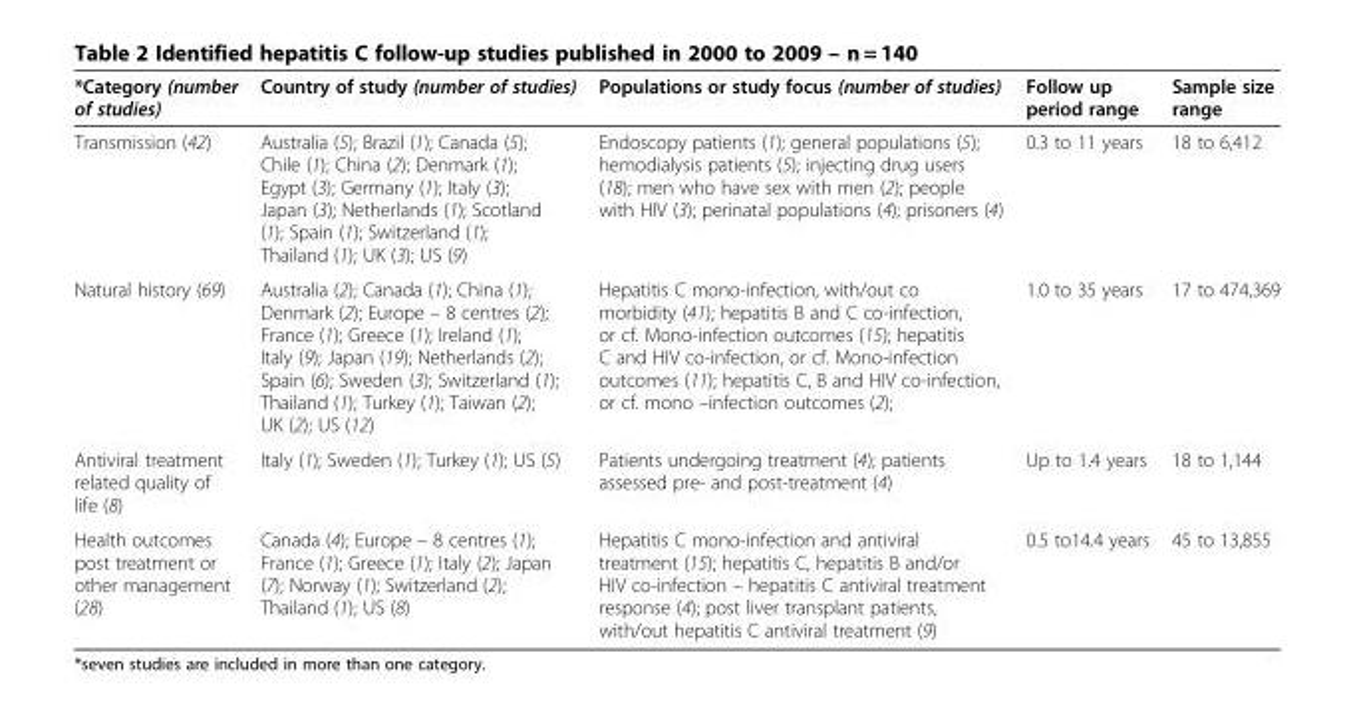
<table><thead><tr><td>*Category (number of studies)</td><td>Country of study (number of studies)</td><td>Populations or study focus (number of studies)</td><td>Follow up period range</td><td>Sample size range</td></tr></thead><tbody><tr><td>Transmission (42)</td><td>Australia (5); Brazil (1); Canada (5); Chile (1); China (2); Denmark (1); Egypt (3); Germany (1); Italy (3); Japan (3); Netherlands (1); Scotland (1); Spain (1); Switzerland (1); Thailand (1); UK (3); US (9)</td><td>Endoscopy patients (1); general populations (5); hemodialysis patients (5); injecting drug users (18); men who have sex with men (2); people with HIV (3); perinatal populations (4); prisoners (4)</td><td>0.3 to 11 years</td><td>18 to 6,412</td></tr><tr><td>Natural history (69)</td><td>Australia (2); Canada (1); China (1); Denmark (2); Europe – 8 centres (2); France (1); Greece (1); Ireland (1); Italy (9); Japan (19); Netherlands (2); Spain (6); Sweden (3); Switzerland (1); Thailand (1); Turkey (1); Taiwan (2); UK (2); US (12)</td><td>Hepatitis C mono-infection, with/out co morbidity (41); hepatitis B and C co-infection, or cf. Mono-infection outcomes (15); hepatitis C and HIV co-infection, or cf. Mono-infection outcomes (11); hepatitis C, B and HIV co-infection, or cf. mono –infection outcomes (2);</td><td>1.0 to 35 years</td><td>17 to 474,369</td></tr><tr><td>Antiviral treatment related quality of life (8)</td><td>Italy (1); Sweden (1); Turkey (1); US (5)</td><td>Patients undergoing treatment (4); patients assessed pre- and post-treatment (4)</td><td>Up to 1.4 years</td><td>18 to 1,144</td></tr><tr><td>Health outcomes post treatment or other management (28)</td><td>Canada (4); Europe – 8 centres (1); France (1); Greece (1); Italy (2); Japan (7); Norway (1); Switzerland (2); Thailand (1); US (8)</td><td>Hepatitis C mono-infection and antiviral treatment (15); hepatitis C, hepatitis B and/or HIV co-infection – hepatitis C antiviral treatment response (4); post liver transplant patients, with/out hepatitis C antiviral treatment (9)</td><td>0.5 to14.4 years</td><td>45 to 13,855</td></tr></tbody></table>